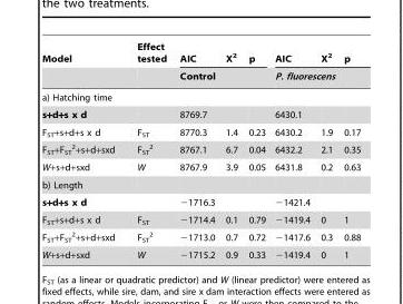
<table><thead><tr><td rowspan="2">Model</td><td rowspan="2">Effect tested</td><td>AIC</td><td>X<sup>2</sup></td><td>p</td><td>AIC</td><td>X<sup>2</sup></td><td>p</td></tr><tr><td colspan="3">Control</td><td colspan="3">P. fluorescens</td></tr></thead><tbody><tr><td colspan="8">a) Hatching time</td></tr><tr><td>s+d+s x d</td><td></td><td>8769.7</td><td></td><td></td><td>6430.1</td><td></td><td></td></tr><tr><td>F<sub>ST</sub>+s+d+s x d</td><td>F<sub>ST</sub></td><td>8770.3</td><td>1.4</td><td>0.23</td><td>6430.2</td><td>1.9</td><td>0.17</td></tr><tr><td>F<sub>ST</sub>+F<sub>ST</sub> <sup>2</sup>+s+d+sxd</td><td>F<sub>ST</sub> <sup>2</sup></td><td>8767.1</td><td>6.7</td><td>0.04</td><td>6432.2</td><td>2.1</td><td>0.35</td></tr><tr><td>W+s+d+sxd</td><td>W</td><td>8767.9</td><td>3.9</td><td>0.05</td><td>6431.8</td><td>0.2</td><td>0.63</td></tr><tr><td colspan="8">b) Length</td></tr><tr><td>s+d+s x d</td><td></td><td>−1716.3</td><td></td><td></td><td>−1421.4</td><td></td><td></td></tr><tr><td>F<sub>ST</sub>+s+d+s x d</td><td>F<sub>ST</sub></td><td>−1714.4</td><td>0.1</td><td>0.79</td><td>−1419.4</td><td>0</td><td>1</td></tr><tr><td>F<sub>ST</sub>+F<sub>ST</sub> <sup>2</sup>+s+d+sxd</td><td>F<sub>ST</sub> <sup>2</sup></td><td>−1713.0</td><td>0.7</td><td>0.72</td><td>−1417.6</td><td>0.3</td><td>0.88</td></tr><tr><td>W+s+d+sxd</td><td>W</td><td>−1715.2</td><td>0.9</td><td>0.33</td><td>−1419.4</td><td>0</td><td>1</td></tr></tbody></table>